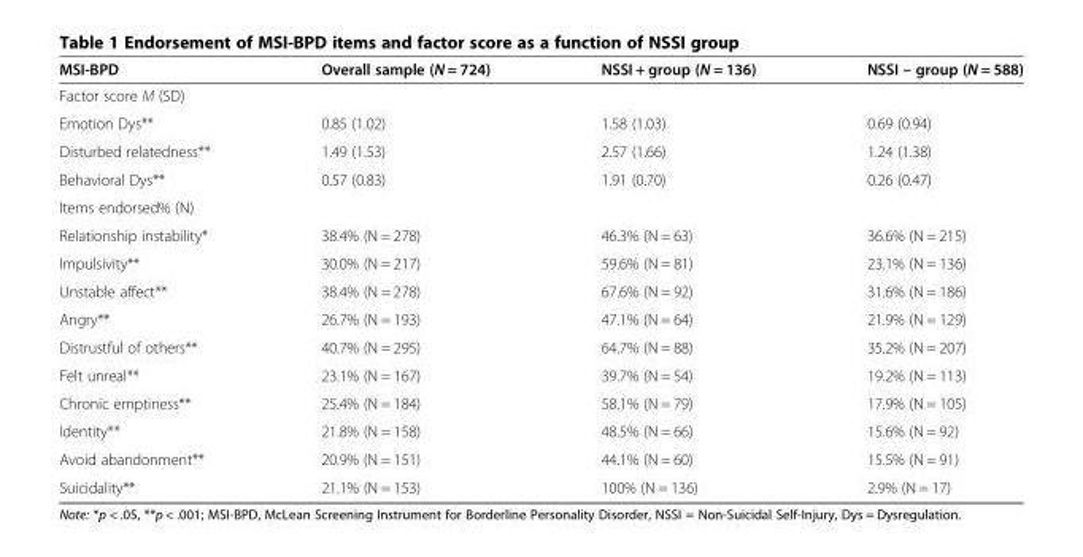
<table><thead><tr><td>MSI-BPD</td><td>Overall sample (N = 724)</td><td>NSSI + group (N = 136)</td><td>NSSI – group (N = 588)</td></tr></thead><tbody><tr><td colspan="4">Factor score M (SD)</td></tr><tr><td>Emotion Dys**</td><td>0.85 (1.02)</td><td>1.58 (1.03)</td><td>0.69 (0.94)</td></tr><tr><td>Disturbed relatedness**</td><td>1.49 (1.53)</td><td>2.57 (1.66)</td><td>1.24 (1.38)</td></tr><tr><td>Behavioral Dys**</td><td>0.57 (0.83)</td><td>1.91 (0.70)</td><td>0.26 (0.47)</td></tr><tr><td colspan="4">Items endorsed% (N)</td></tr><tr><td>Relationship instability*</td><td>38.4% (N = 278)</td><td>46.3% (N = 63)</td><td>36.6% (N = 215)</td></tr><tr><td>Impulsivity**</td><td>30.0% (N = 217)</td><td>59.6% (N = 81)</td><td>23.1% (N = 136)</td></tr><tr><td>Unstable affect**</td><td>38.4% (N = 278)</td><td>67.6% (N = 92)</td><td>31.6% (N = 186)</td></tr><tr><td>Angry**</td><td>26.7% (N = 193)</td><td>47.1% (N = 64)</td><td>21.9% (N = 129)</td></tr><tr><td>Distrustful of others**</td><td>40.7% (N = 295)</td><td>64.7% (N = 88)</td><td>35.2% (N = 207)</td></tr><tr><td>Felt unreal**</td><td>23.1% (N = 167)</td><td>39.7% (N = 54)</td><td>19.2% (N = 113)</td></tr><tr><td>Chronic emptiness**</td><td>25.4% (N = 184)</td><td>58.1% (N = 79)</td><td>17.9% (N = 105)</td></tr><tr><td>Identity**</td><td>21.8% (N = 158)</td><td>48.5% (N = 66)</td><td>15.6% (N = 92)</td></tr><tr><td>Avoid abandonment**</td><td>20.9% (N = 151)</td><td>44.1% (N = 60)</td><td>15.5% (N = 91)</td></tr><tr><td>Suicidality**</td><td>21.1% (N = 153)</td><td>100% (N = 136)</td><td>2.9% (N = 17)</td></tr></tbody></table>